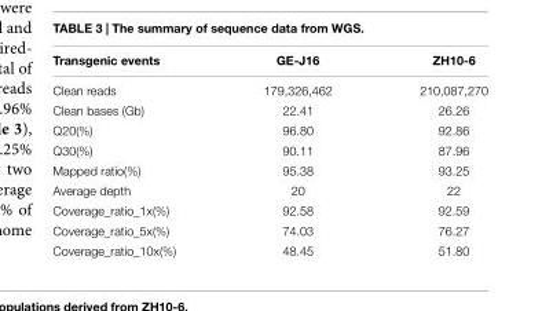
<table><thead><tr><td>Transgenic events</td><td>GE-J16</td><td>ZH10-6</td></tr></thead><tbody><tr><td>Clean reads</td><td>179,326,462</td><td>210,087,270</td></tr><tr><td>Clean bases (Gb)</td><td>22.41</td><td>26.26</td></tr><tr><td>Q20(%)</td><td>96.80</td><td>92.86</td></tr><tr><td>Q30(%)</td><td>90.11</td><td>87.96</td></tr><tr><td>Mapped ratio(%)</td><td>95.38</td><td>93.25</td></tr><tr><td>Average depth</td><td>20</td><td>22</td></tr><tr><td>Coverage_ratio_1x(%)</td><td>92.58</td><td>92.59</td></tr><tr><td>Coverage_ratio_5x(%)</td><td>74.03</td><td>76.27</td></tr><tr><td>Coverage_ratio_10x(%)</td><td>48.45</td><td>51.80</td></tr></tbody></table>